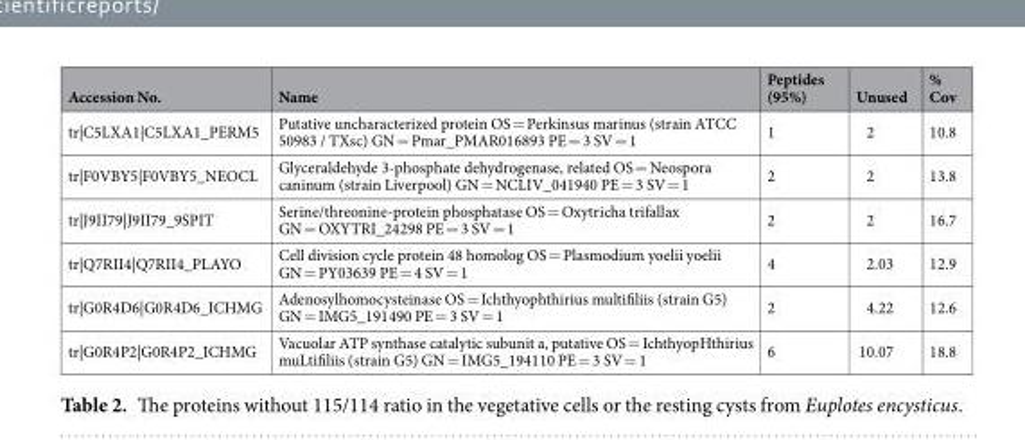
<table><thead><tr><td>Accession No.</td><td>Name</td><td>Peptides (95%)</td><td>Unused</td><td>% Cov</td></tr></thead><tbody><tr><td>tr|C5LXA1|C5LXA1_PERM5</td><td>Putative uncharacterized protein OS = Perkinsus marinus (strain ATCC 50983 / TXsc) GN = Pmar_PMAR016893 PE = 3 SV = 1</td><td>1</td><td>2</td><td>10.8</td></tr><tr><td>tr|F0VBY5|F0VBY5_NEOCL</td><td>Glyceraldehyde 3-phosphate dehydrogenase, related OS = Neospora caninum (strain Liverpool) GN = NCLIV_041940 PE = 3 SV = 1</td><td>2</td><td>2</td><td>13.8</td></tr><tr><td>tr|J9II79|J9II79_9SPIT</td><td>Serine/threonine-protein phosphatase OS = Oxytricha trifallax GN = OXYTRI_24298 PE = 3 SV = 1</td><td>2</td><td>2</td><td>16.7</td></tr><tr><td>tr|Q7RII4|Q7RII4_PLAYO</td><td>Cell division cycle protein 48 homolog OS = Plasmodium yoelii yoelii GN = PY03639 PE = 4 SV = 1</td><td>4</td><td>2.03</td><td>12.9</td></tr><tr><td>tr|G0R4D6|G0R4D6_ICHMG</td><td>Adenosylhomocysteinase OS = Ichthyophthirius multifiliis (strain G5) GN = IMG5_191490 PE = 3 SV = 1</td><td>2</td><td>4.22</td><td>12.6</td></tr><tr><td>tr|G0R4P2|G0R4P2_ICHMG</td><td>Vacuolar ATP synthase catalytic subunit a, putative OS = IchthyopHthirius muLtifiliis (strain G5) GN = IMG5_194110 PE = 3 SV = 1</td><td>6</td><td>10.07</td><td>18.8</td></tr></tbody></table>